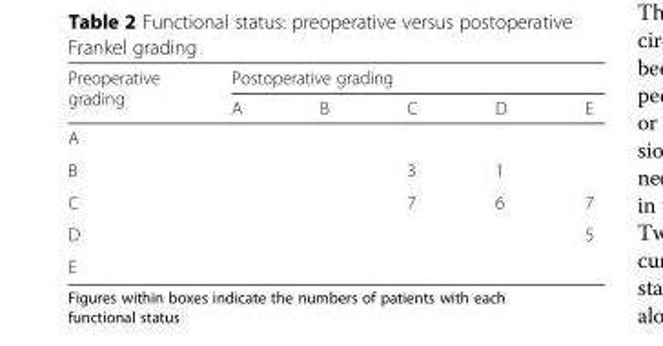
<table><thead><tr><td rowspan="2">Preoperative grading</td><td colspan="5">Postoperative grading</td></tr><tr><td>A</td><td>B</td><td>C</td><td>D</td><td>E</td></tr></thead><tbody><tr><td colspan="6">A</td></tr><tr><td>B</td><td></td><td></td><td>3</td><td>1</td><td></td></tr><tr><td>C</td><td></td><td></td><td>7</td><td>6</td><td>7</td></tr><tr><td>D</td><td></td><td></td><td></td><td></td><td>5</td></tr><tr><td>E</td><td></td><td></td><td></td><td></td><td></td></tr></tbody></table>